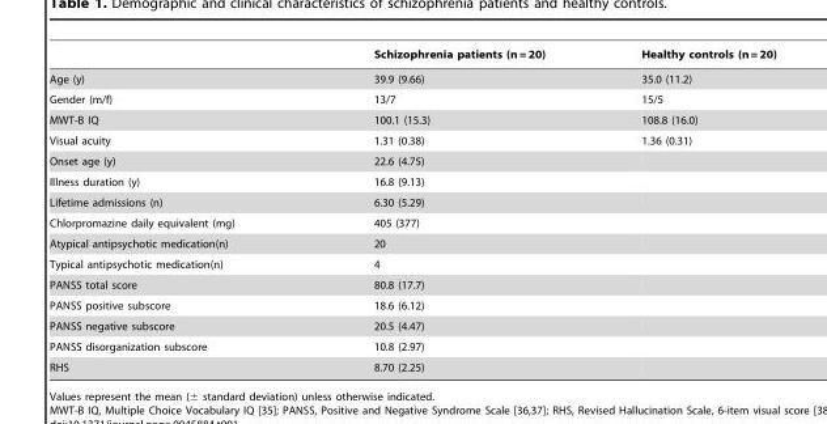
<table><thead><tr><td></td><td>Schizophrenia patients (n = 20)</td><td>Healthy controls (n = 20)</td></tr></thead><tbody><tr><td>Age (y)</td><td>39.9 (9.66)</td><td>35.0 (11.2)</td></tr><tr><td>Gender (m/f)</td><td>13/7</td><td>15/5</td></tr><tr><td>MWT-B IQ</td><td>100.1 (15.3)</td><td>108.8 (16.0)</td></tr><tr><td>Visual acuity</td><td>1.31 (0.38)</td><td>1.36 (0.31)</td></tr><tr><td>Onset age (y)</td><td>22.6 (4.75)</td><td></td></tr><tr><td>Illness duration (y)</td><td>16.8 (9.13)</td><td></td></tr><tr><td>Lifetime admissions (n)</td><td>6.30 (5.29)</td><td></td></tr><tr><td>Chlorpromazine daily equivalent (mg)</td><td>405 (377)</td><td></td></tr><tr><td>Atypical antipsychotic medication(n)</td><td>20</td><td></td></tr><tr><td>Typical antipsychotic medication(n)</td><td>4</td><td></td></tr><tr><td>PANSS total score</td><td>80.8 (17.7)</td><td></td></tr><tr><td>PANSS positive subscore</td><td>18.6 (6.12)</td><td></td></tr><tr><td>PANSS negative subscore</td><td>20.5 (4.47)</td><td></td></tr><tr><td>PANSS disorganization subscore</td><td>10.8 (2.97)</td><td></td></tr><tr><td>RHS</td><td>8.70 (2.25)</td><td></td></tr></tbody></table>